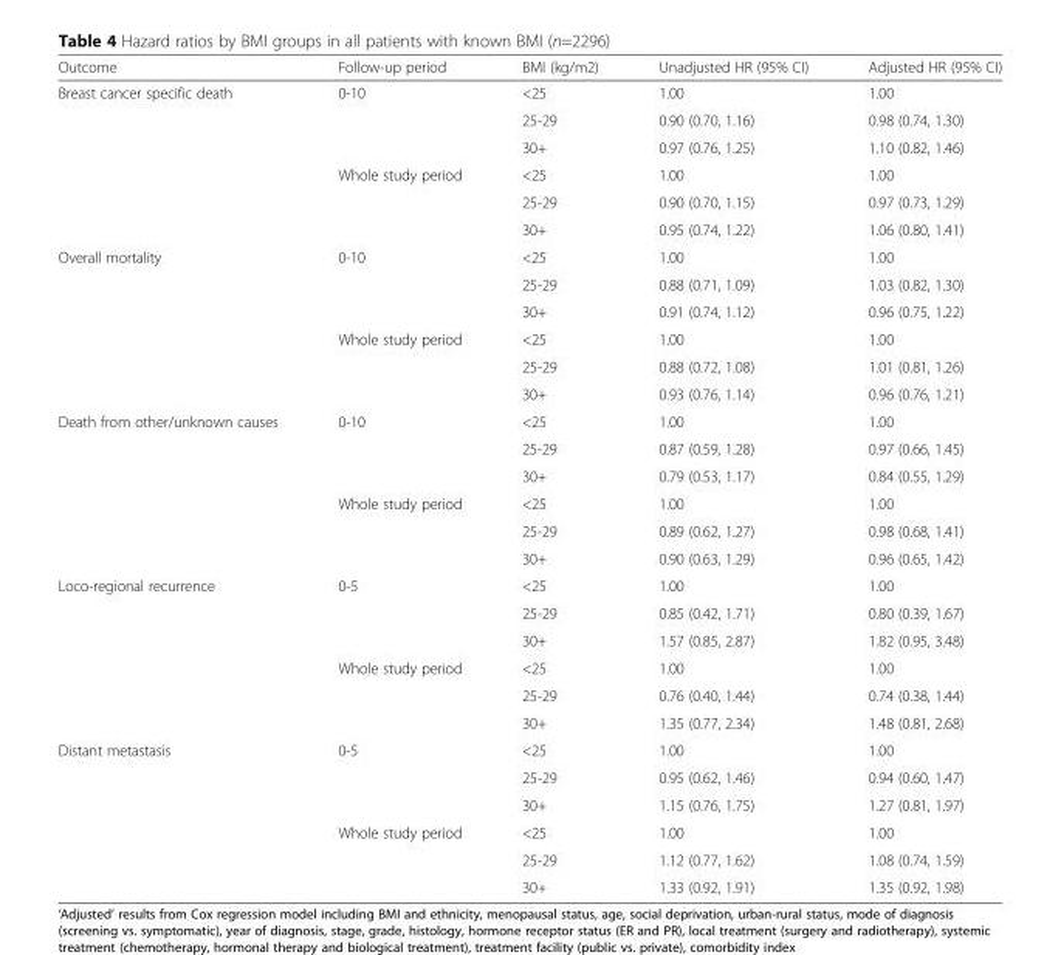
<table><thead><tr><td>Outcome</td><td>Follow-up period</td><td>BMI (kg/m2)</td><td>Unadjusted HR (95% CI)</td><td>Adjusted HR (95% CI)</td></tr></thead><tbody><tr><td rowspan="6">Breast cancer specific death</td><td rowspan="3">0-10</td><td>&lt;25</td><td>1.00</td><td>1.00</td></tr><tr><td>25-29</td><td>0.90 (0.70, 1.16)</td><td>0.98 (0.74, 1.30)</td></tr><tr><td>30+</td><td>0.97 (0.76, 1.25)</td><td>1.10 (0.82, 1.46)</td></tr><tr><td rowspan="3">Whole study period</td><td>&lt;25</td><td>1.00</td><td>1.00</td></tr><tr><td>25-29</td><td>0.90 (0.70, 1.15)</td><td>0.97 (0.73, 1.29)</td></tr><tr><td>30+</td><td>0.95 (0.74, 1.22)</td><td>1.06 (0.80, 1.41)</td></tr><tr><td rowspan="6">Overall mortality</td><td rowspan="3">0-10</td><td>&lt;25</td><td>1.00</td><td>1.00</td></tr><tr><td>25-29</td><td>0.88 (0.71, 1.09)</td><td>1.03 (0.82, 1.30)</td></tr><tr><td>30+</td><td>0.91 (0.74, 1.12)</td><td>0.96 (0.75, 1.22)</td></tr><tr><td rowspan="3">Whole study period</td><td>&lt;25</td><td>1.00</td><td>1.00</td></tr><tr><td>25-29</td><td>0.88 (0.72, 1.08)</td><td>1.01 (0.81, 1.26)</td></tr><tr><td>30+</td><td>0.93 (0.76, 1.14)</td><td>0.96 (0.76, 1.21)</td></tr><tr><td rowspan="6">Death from other/unknown causes</td><td rowspan="3">0-10</td><td>&lt;25</td><td>1.00</td><td>1.00</td></tr><tr><td>25-29</td><td>0.87 (0.59, 1.28)</td><td>0.97 (0.66, 1.45)</td></tr><tr><td>30+</td><td>0.79 (0.53, 1.17)</td><td>0.84 (0.55, 1.29)</td></tr><tr><td rowspan="3">Whole study period</td><td>&lt;25</td><td>1.00</td><td>1.00</td></tr><tr><td>25-29</td><td>0.89 (0.62, 1.27)</td><td>0.98 (0.68, 1.41)</td></tr><tr><td>30+</td><td>0.90 (0.63, 1.29)</td><td>0.96 (0.65, 1.42)</td></tr><tr><td rowspan="6">Loco-regional recurrence</td><td rowspan="3">0-5</td><td>&lt;25</td><td>1.00</td><td>1.00</td></tr><tr><td>25-29</td><td>0.85 (0.42, 1.71)</td><td>0.80 (0.39, 1.67)</td></tr><tr><td>30+</td><td>1.57 (0.85, 2.87)</td><td>1.82 (0.95, 3.48)</td></tr><tr><td rowspan="3">Whole study period</td><td>&lt;25</td><td>1.00</td><td>1.00</td></tr><tr><td>25-29</td><td>0.76 (0.40, 1.44)</td><td>0.74 (0.38, 1.44)</td></tr><tr><td>30+</td><td>1.35 (0.77, 2.34)</td><td>1.48 (0.81, 2.68)</td></tr><tr><td rowspan="6">Distant metastasis</td><td rowspan="3">0-5</td><td>&lt;25</td><td>1.00</td><td>1.00</td></tr><tr><td>25-29</td><td>0.95 (0.62, 1.46)</td><td>0.94 (0.60, 1.47)</td></tr><tr><td>30+</td><td>1.15 (0.76, 1.75)</td><td>1.27 (0.81, 1.97)</td></tr><tr><td rowspan="3">Whole study period</td><td>&lt;25</td><td>1.00</td><td>1.00</td></tr><tr><td>25-29</td><td>1.12 (0.77, 1.62)</td><td>1.08 (0.74, 1.59)</td></tr><tr><td>30+</td><td>1.33 (0.92, 1.91)</td><td>1.35 (0.92, 1.98)</td></tr></tbody></table>